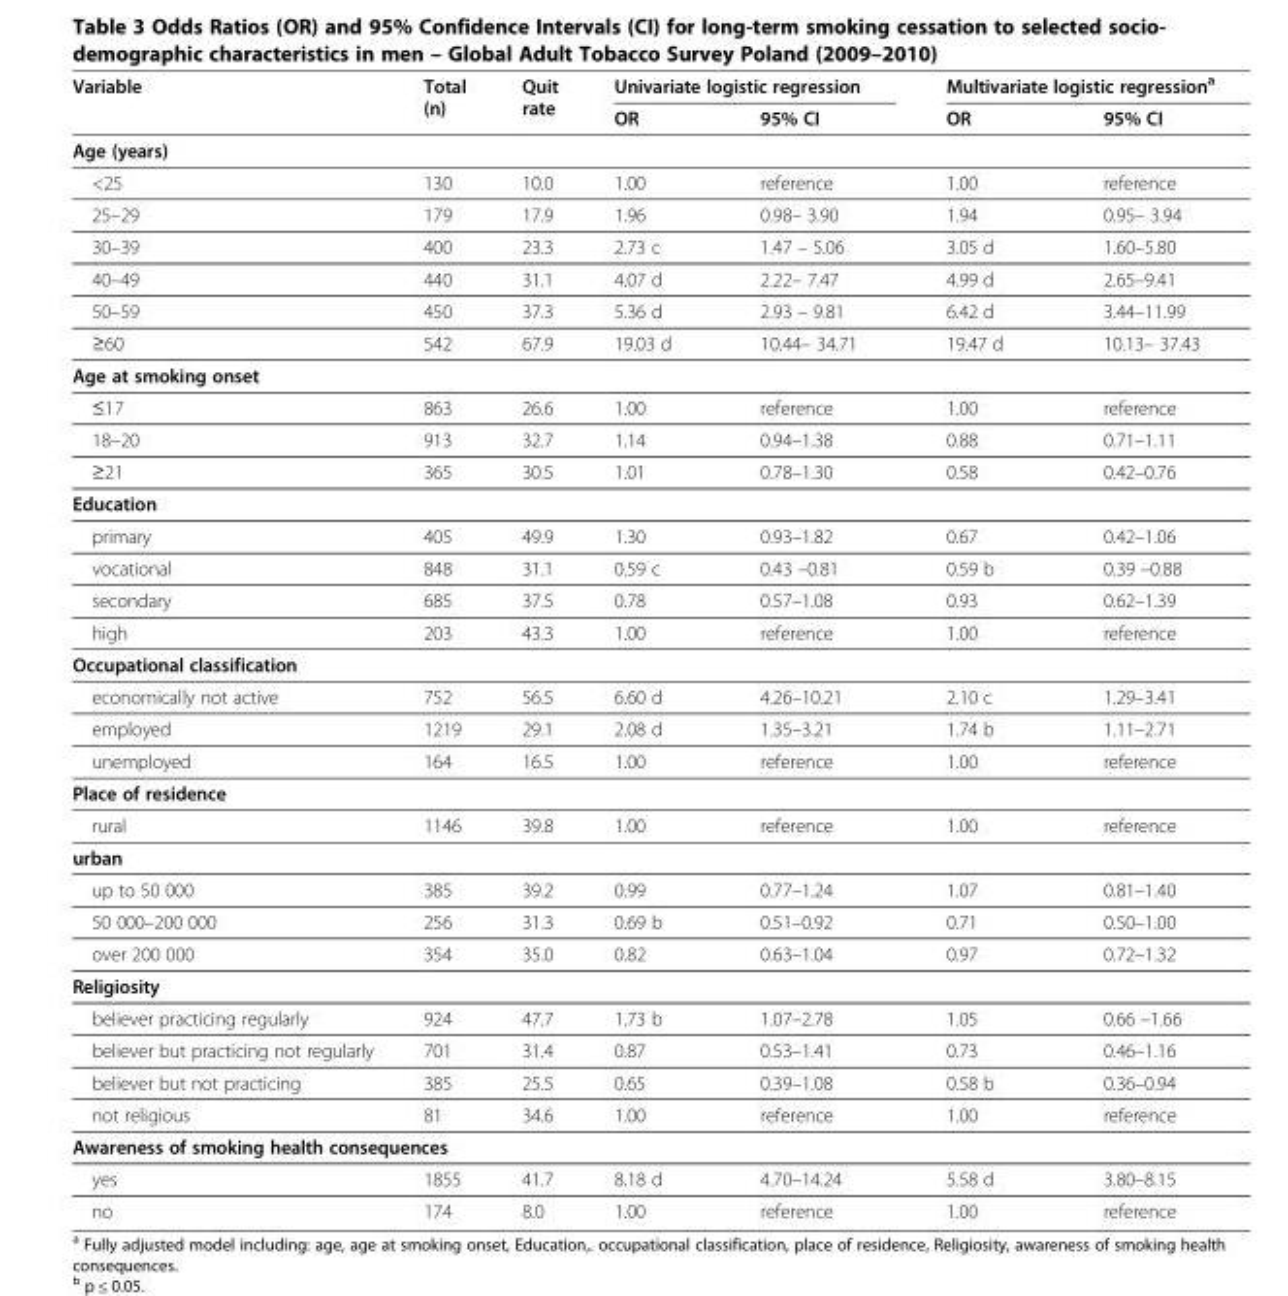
<table><thead><tr><td rowspan="2">Variable</td><td rowspan="2">Total (n)</td><td rowspan="2">Quit rate</td><td colspan="2">Univariate logistic regression</td><td colspan="2">Multivariate logistic regression<sup>a</sup></td></tr><tr><td>OR</td><td>95% CI</td><td>OR</td><td>95% CI</td></tr></thead><tbody><tr><td colspan="7">Age (years)</td></tr><tr><td>&lt;25</td><td>130</td><td>10.0</td><td>1.00</td><td>reference</td><td>1.00</td><td>reference</td></tr><tr><td>25–29</td><td>179</td><td>17.9</td><td>1.96</td><td>0.98– 3.90</td><td>1.94</td><td>0.95– 3.94</td></tr><tr><td>30–39</td><td>400</td><td>23.3</td><td>2.73 c</td><td>1.47 – 5.06</td><td>3.05 d</td><td>1.60–5.80</td></tr><tr><td>40–49</td><td>440</td><td>31.1</td><td>4.07 d</td><td>2.22– 7.47</td><td>4.99 d</td><td>2.65–9.41</td></tr><tr><td>50–59</td><td>450</td><td>37.3</td><td>5.36 d</td><td>2.93 – 9.81</td><td>6.42 d</td><td>3.44–11.99</td></tr><tr><td>≥60</td><td>542</td><td>67.9</td><td>19.03 d</td><td>10.44– 34.71</td><td>19.47 d</td><td>10.13– 37.43</td></tr><tr><td colspan="7">Age at smoking onset</td></tr><tr><td>≤17</td><td>863</td><td>26.6</td><td>1.00</td><td>reference</td><td>1.00</td><td>reference</td></tr><tr><td>18–20</td><td>913</td><td>32.7</td><td>1.14</td><td>0.94–1.38</td><td>0.88</td><td>0.71–1.11</td></tr><tr><td>≥21</td><td>365</td><td>30.5</td><td>1.01</td><td>0.78–1.30</td><td>0.58</td><td>0.42–0.76</td></tr><tr><td colspan="7">Education</td></tr><tr><td>primary</td><td>405</td><td>49.9</td><td>1.30</td><td>0.93–1.82</td><td>0.67</td><td>0.42–1.06</td></tr><tr><td>vocational</td><td>848</td><td>31.1</td><td>0.59 c</td><td>0.43 –0.81</td><td>0.59 b</td><td>0.39 –0.88</td></tr><tr><td>secondary</td><td>685</td><td>37.5</td><td>0.78</td><td>0.57–1.08</td><td>0.93</td><td>0.62–1.39</td></tr><tr><td>high</td><td>203</td><td>43.3</td><td>1.00</td><td>reference</td><td>1.00</td><td>reference</td></tr><tr><td colspan="7">Occupational classification</td></tr><tr><td>economically not active</td><td>752</td><td>56.5</td><td>6.60 d</td><td>4.26–10.21</td><td>2.10 c</td><td>1.29–3.41</td></tr><tr><td>employed</td><td>1219</td><td>29.1</td><td>2.08 d</td><td>1.35–3.21</td><td>1.74 b</td><td>1.11–2.71</td></tr><tr><td>unemployed</td><td>164</td><td>16.5</td><td>1.00</td><td>reference</td><td>1.00</td><td>reference</td></tr><tr><td colspan="7">Place of residence</td></tr><tr><td>rural</td><td>1146</td><td>39.8</td><td>1.00</td><td>reference</td><td>1.00</td><td>reference</td></tr><tr><td colspan="7">urban</td></tr><tr><td>up to 50 000</td><td>385</td><td>39.2</td><td>0.99</td><td>0.77–1.24</td><td>1.07</td><td>0.81–1.40</td></tr><tr><td>50 000–200 000</td><td>256</td><td>31.3</td><td>0.69 b</td><td>0.51–0.92</td><td>0.71</td><td>0.50–1.00</td></tr><tr><td>over 200 000</td><td>354</td><td>35.0</td><td>0.82</td><td>0.63–1.04</td><td>0.97</td><td>0.72–1.32</td></tr><tr><td colspan="7">Religiosity</td></tr><tr><td>believer practicing regularly</td><td>924</td><td>47.7</td><td>1.73 b</td><td>1.07–2.78</td><td>1.05</td><td>0.66 –1.66</td></tr><tr><td>believer but practicing not regularly</td><td>701</td><td>31.4</td><td>0.87</td><td>0.53–1.41</td><td>0.73</td><td>0.46–1.16</td></tr><tr><td>believer but not practicing</td><td>385</td><td>25.5</td><td>0.65</td><td>0.39–1.08</td><td>0.58 b</td><td>0.36–0.94</td></tr><tr><td>not religious</td><td>81</td><td>34.6</td><td>1.00</td><td>reference</td><td>1.00</td><td>reference</td></tr><tr><td colspan="7">Awareness of smoking health consequences</td></tr><tr><td>yes</td><td>1855</td><td>41.7</td><td>8.18 d</td><td>4.70–14.24</td><td>5.58 d</td><td>3.80–8.15</td></tr><tr><td>no</td><td>174</td><td>8.0</td><td>1.00</td><td>reference</td><td>1.00</td><td>reference</td></tr></tbody></table>